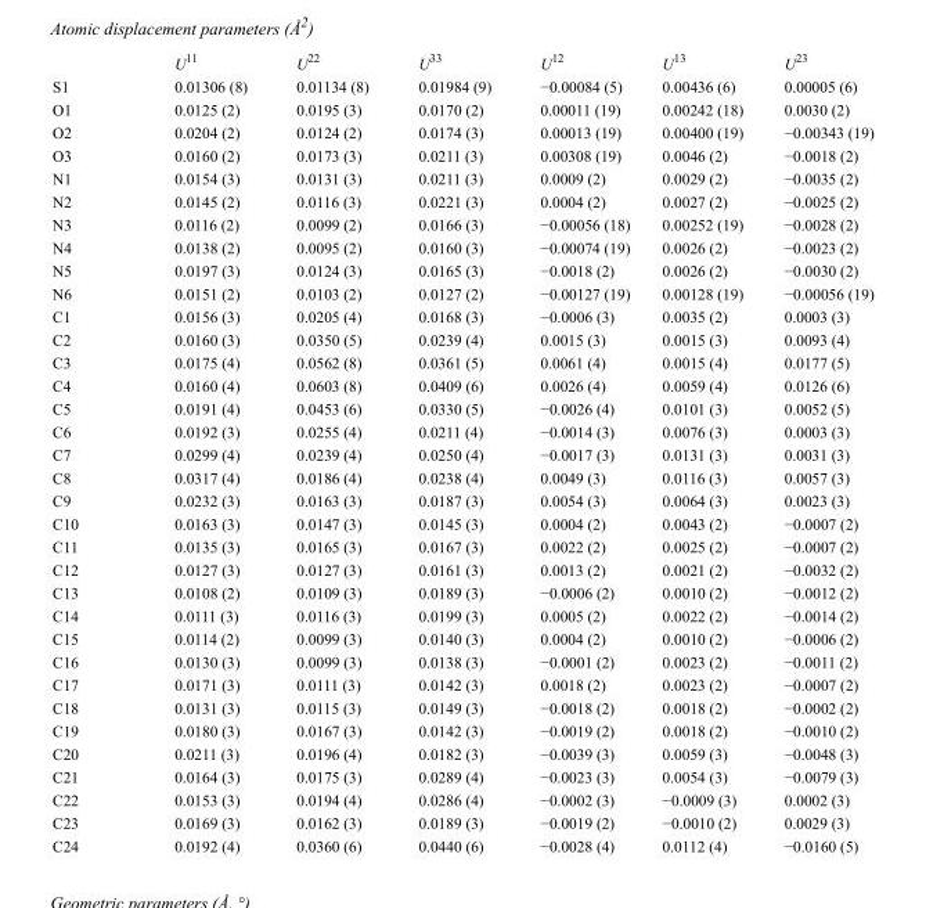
<table><thead><tr><td></td><td>U<sup>11</sup></td><td>U<sup>22</sup></td><td>U<sup>33</sup></td><td>U<sup>12</sup></td><td>U<sup>13</sup></td><td>U<sup>23</sup></td></tr></thead><tbody><tr><td>S1</td><td>0.01306 (8)</td><td>0.01134 (8)</td><td>0.01984 (9)</td><td>−0.00084 (5)</td><td>0.00436 (6)</td><td>0.00005 (6)</td></tr><tr><td>O1</td><td>0.0125 (2)</td><td>0.0195 (3)</td><td>0.0170 (2)</td><td>0.00011 (19)</td><td>0.00242 (18)</td><td>0.0030 (2)</td></tr><tr><td>O2</td><td>0.0204 (2)</td><td>0.0124 (2)</td><td>0.0174 (3)</td><td>0.00013 (19)</td><td>0.00400 (19)</td><td>−0.00343 (19)</td></tr><tr><td>O3</td><td>0.0160 (2)</td><td>0.0173 (3)</td><td>0.0211 (3)</td><td>0.00308 (19)</td><td>0.0046 (2)</td><td>−0.0018 (2)</td></tr><tr><td>N1</td><td>0.0154 (3)</td><td>0.0131 (3)</td><td>0.0211 (3)</td><td>0.0009 (2)</td><td>0.0029 (2)</td><td>−0.0035 (2)</td></tr><tr><td>N2</td><td>0.0145 (2)</td><td>0.0116 (3)</td><td>0.0221 (3)</td><td>0.0004 (2)</td><td>0.0027 (2)</td><td>−0.0025 (2)</td></tr><tr><td>N3</td><td>0.0116 (2)</td><td>0.0099 (2)</td><td>0.0166 (3)</td><td>−0.00056 (18)</td><td>0.00252 (19)</td><td>−0.0028 (2)</td></tr><tr><td>N4</td><td>0.0138 (2)</td><td>0.0095 (2)</td><td>0.0160 (3)</td><td>−0.00074 (19)</td><td>0.0026 (2)</td><td>−0.0023 (2)</td></tr><tr><td>N5</td><td>0.0197 (3)</td><td>0.0124 (3)</td><td>0.0165 (3)</td><td>−0.0018 (2)</td><td>0.0026 (2)</td><td>−0.0030 (2)</td></tr><tr><td>N6</td><td>0.0151 (2)</td><td>0.0103 (2)</td><td>0.0127 (2)</td><td>−0.00127 (19)</td><td>0.00128 (19)</td><td>−0.00056 (19)</td></tr><tr><td>C1</td><td>0.0156 (3)</td><td>0.0205 (4)</td><td>0.0168 (3)</td><td>−0.0006 (3)</td><td>0.0035 (2)</td><td>0.0003 (3)</td></tr><tr><td>C2</td><td>0.0160 (3)</td><td>0.0350 (5)</td><td>0.0239 (4)</td><td>0.0015 (3)</td><td>0.0015 (3)</td><td>0.0093 (4)</td></tr><tr><td>C3</td><td>0.0175 (4)</td><td>0.0562 (8)</td><td>0.0361 (5)</td><td>0.0061 (4)</td><td>0.0015 (4)</td><td>0.0177 (5)</td></tr><tr><td>C4</td><td>0.0160 (4)</td><td>0.0603 (8)</td><td>0.0409 (6)</td><td>0.0026 (4)</td><td>0.0059 (4)</td><td>0.0126 (6)</td></tr><tr><td>C5</td><td>0.0191 (4)</td><td>0.0453 (6)</td><td>0.0330 (5)</td><td>−0.0026 (4)</td><td>0.0101 (3)</td><td>0.0052 (5)</td></tr><tr><td>C6</td><td>0.0192 (3)</td><td>0.0255 (4)</td><td>0.0211 (4)</td><td>−0.0014 (3)</td><td>0.0076 (3)</td><td>0.0003 (3)</td></tr><tr><td>C7</td><td>0.0299 (4)</td><td>0.0239 (4)</td><td>0.0250 (4)</td><td>−0.0017 (3)</td><td>0.0131 (3)</td><td>0.0031 (3)</td></tr><tr><td>C8</td><td>0.0317 (4)</td><td>0.0186 (4)</td><td>0.0238 (4)</td><td>0.0049 (3)</td><td>0.0116 (3)</td><td>0.0057 (3)</td></tr><tr><td>C9</td><td>0.0232 (3)</td><td>0.0163 (3)</td><td>0.0187 (3)</td><td>0.0054 (3)</td><td>0.0064 (3)</td><td>0.0023 (3)</td></tr><tr><td>C10</td><td>0.0163 (3)</td><td>0.0147 (3)</td><td>0.0145 (3)</td><td>0.0004 (2)</td><td>0.0043 (2)</td><td>−0.0007 (2)</td></tr><tr><td>C11</td><td>0.0135 (3)</td><td>0.0165 (3)</td><td>0.0167 (3)</td><td>0.0022 (2)</td><td>0.0025 (2)</td><td>−0.0007 (2)</td></tr><tr><td>C12</td><td>0.0127 (3)</td><td>0.0127 (3)</td><td>0.0161 (3)</td><td>0.0013 (2)</td><td>0.0021 (2)</td><td>−0.0032 (2)</td></tr><tr><td>C13</td><td>0.0108 (2)</td><td>0.0109 (3)</td><td>0.0189 (3)</td><td>−0.0006 (2)</td><td>0.0010 (2)</td><td>−0.0012 (2)</td></tr><tr><td>C14</td><td>0.0111 (3)</td><td>0.0116 (3)</td><td>0.0199 (3)</td><td>0.0005 (2)</td><td>0.0022 (2)</td><td>−0.0014 (2)</td></tr><tr><td>C15</td><td>0.0114 (2)</td><td>0.0099 (3)</td><td>0.0140 (3)</td><td>0.0004 (2)</td><td>0.0010 (2)</td><td>−0.0006 (2)</td></tr><tr><td>C16</td><td>0.0130 (3)</td><td>0.0099 (3)</td><td>0.0138 (3)</td><td>−0.0001 (2)</td><td>0.0023 (2)</td><td>−0.0011 (2)</td></tr><tr><td>C17</td><td>0.0171 (3)</td><td>0.0111 (3)</td><td>0.0142 (3)</td><td>0.0018 (2)</td><td>0.0023 (2)</td><td>−0.0007 (2)</td></tr><tr><td>C18</td><td>0.0131 (3)</td><td>0.0115 (3)</td><td>0.0149 (3)</td><td>−0.0018 (2)</td><td>0.0018 (2)</td><td>−0.0002 (2)</td></tr><tr><td>C19</td><td>0.0180 (3)</td><td>0.0167 (3)</td><td>0.0142 (3)</td><td>−0.0019 (2)</td><td>0.0018 (2)</td><td>−0.0010 (2)</td></tr><tr><td>C20</td><td>0.0211 (3)</td><td>0.0196 (4)</td><td>0.0182 (3)</td><td>−0.0039 (3)</td><td>0.0059 (3)</td><td>−0.0048 (3)</td></tr><tr><td>C21</td><td>0.0164 (3)</td><td>0.0175 (3)</td><td>0.0289 (4)</td><td>−0.0023 (3)</td><td>0.0054 (3)</td><td>−0.0079 (3)</td></tr><tr><td>C22</td><td>0.0153 (3)</td><td>0.0194 (4)</td><td>0.0286 (4)</td><td>−0.0002 (3)</td><td>−0.0009 (3)</td><td>0.0002 (3)</td></tr><tr><td>C23</td><td>0.0169 (3)</td><td>0.0162 (3)</td><td>0.0189 (3)</td><td>−0.0019 (2)</td><td>−0.0010 (2)</td><td>0.0029 (3)</td></tr><tr><td>C24</td><td>0.0192 (4)</td><td>0.0360 (6)</td><td>0.0440 (6)</td><td>−0.0028 (4)</td><td>0.0112 (4)</td><td>−0.0160 (5)</td></tr></tbody></table>